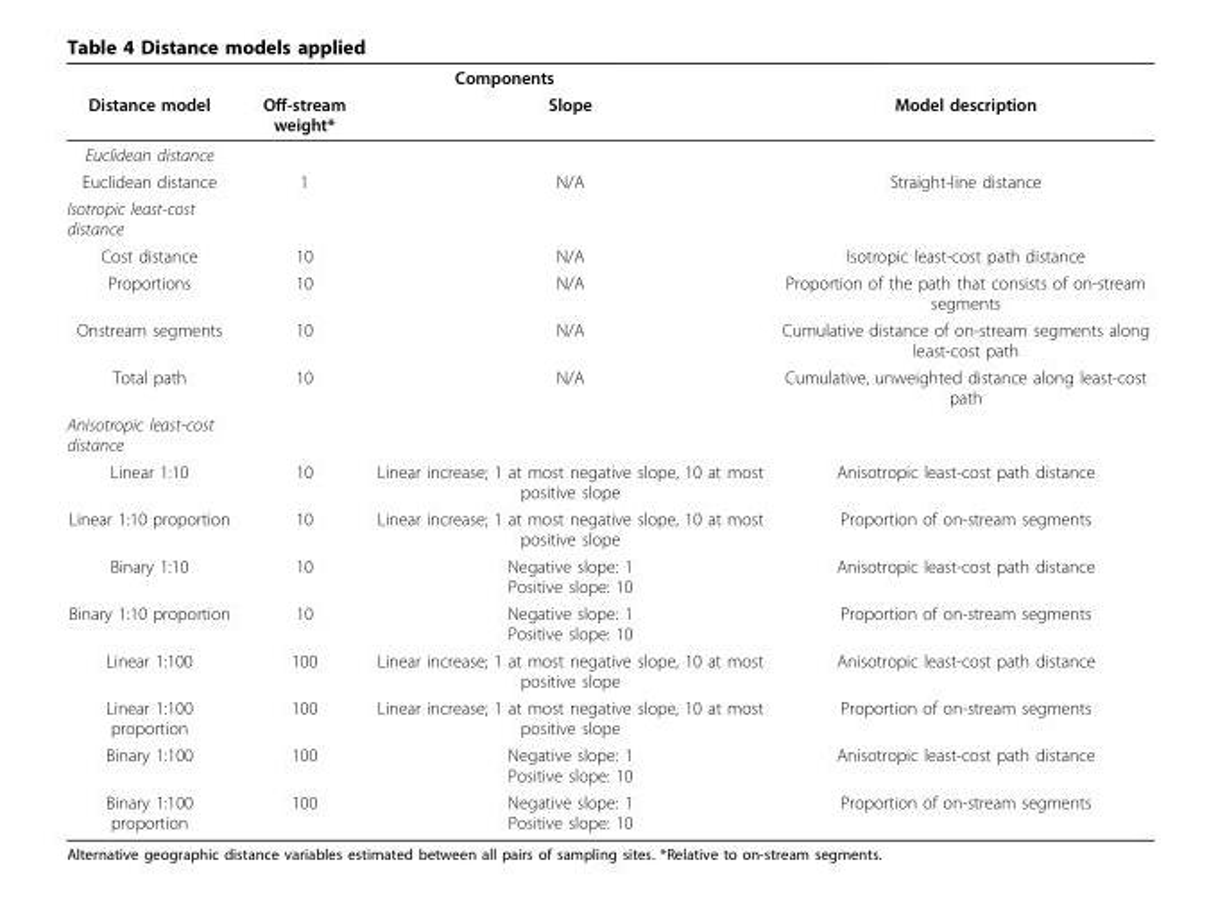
<table><thead><tr><td rowspan="2">Distance model</td><td colspan="2">Components</td><td rowspan="2">Model description</td></tr><tr><td>Off-stream weight*</td><td>Slope</td></tr></thead><tbody><tr><td colspan="4">Euclidean distance</td></tr><tr><td>Euclidean distance</td><td>1</td><td>N/A</td><td>Straight-line distance</td></tr><tr><td colspan="4">Isotropic least-cost distance</td></tr><tr><td>Cost distance</td><td>10</td><td>N/A</td><td>Isotropic least-cost path distance</td></tr><tr><td>Proportions</td><td>10</td><td>N/A</td><td>Proportion of the path that consists of on-stream segments</td></tr><tr><td>Onstream segments</td><td>10</td><td>N/A</td><td>Cumulative distance of on-stream segments along least-cost path</td></tr><tr><td>Total path</td><td>10</td><td>N/A</td><td>Cumulative, unweighted distance along least-cost path</td></tr><tr><td colspan="4">Anisotropic least-cost distance</td></tr><tr><td>Linear 1:10</td><td>10</td><td>Linear increase; 1 at most negative slope, 10 at most positive slope</td><td>Anisotropic least-cost path distance</td></tr><tr><td>Linear 1:10 proportion</td><td>10</td><td>Linear increase; 1 at most negative slope, 10 at most positive slope</td><td>Proportion of on-stream segments</td></tr><tr><td>Binary 1:10</td><td>10</td><td>Negative slope: 1 Positive slope: 10</td><td>Anisotropic least-cost path distance</td></tr><tr><td>Binary 1:10 proportion</td><td>10</td><td>Negative slope: 1 Positive slope: 10</td><td>Proportion of on-stream segments</td></tr><tr><td>Linear 1:100</td><td>100</td><td>Linear increase; 1 at most negative slope, 10 at most positive slope</td><td>Anisotropic least-cost path distance</td></tr><tr><td>Linear 1:100 proportion</td><td>100</td><td>Linear increase; 1 at most negative slope, 10 at most positive slope</td><td>Proportion of on-stream segments</td></tr><tr><td>Binary 1:100</td><td>100</td><td>Negative slope: 1 Positive slope: 10</td><td>Anisotropic least-cost path distance</td></tr><tr><td>Binary 1:100 proportion</td><td>100</td><td>Negative slope: 1 Positive slope: 10</td><td>Proportion of on-stream segments</td></tr></tbody></table>